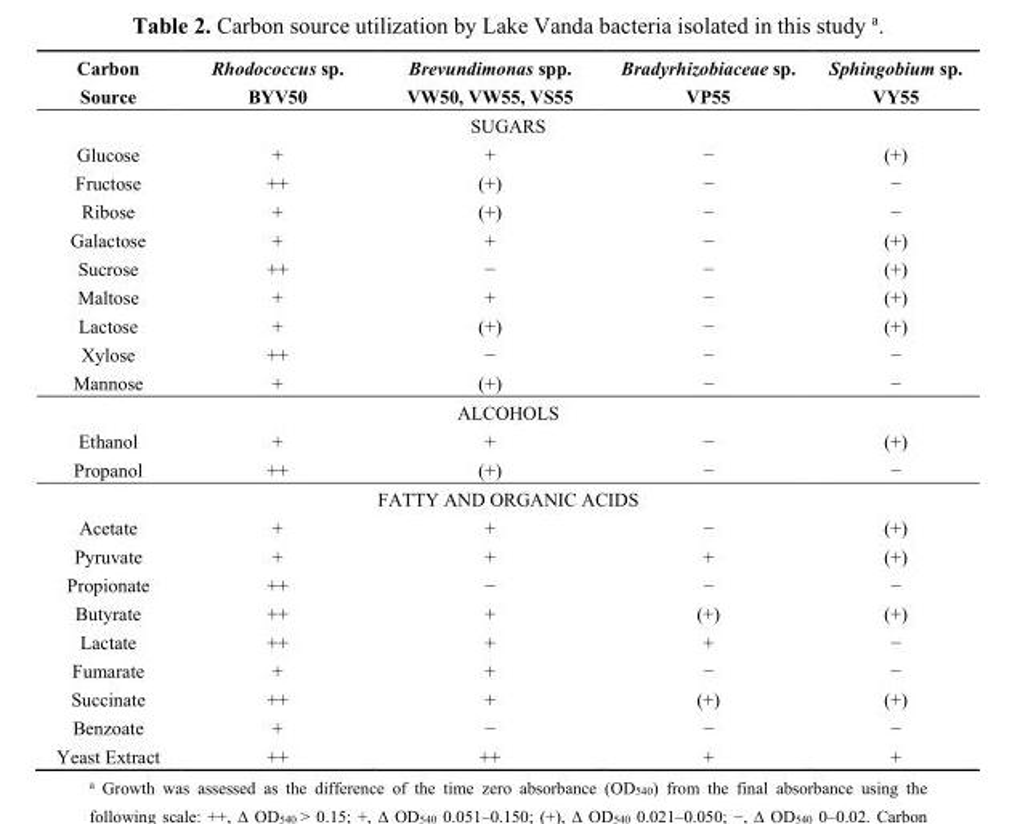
<table><thead><tr><td>Carbon Source</td><td>Rhodococcus sp. BYV50</td><td>Brevundimonas spp. VW50, VW55, VS55</td><td>Bradyrhizobiaceae sp. VP55</td><td>Sphingobium sp. VY55</td></tr></thead><tbody><tr><td colspan="5">SUGARS</td></tr><tr><td>Glucose</td><td>+</td><td>+</td><td>−</td><td>(+)</td></tr><tr><td>Fructose</td><td>++</td><td>(+)</td><td>−</td><td>−</td></tr><tr><td>Ribose</td><td>+</td><td>(+)</td><td>−</td><td>−</td></tr><tr><td>Galactose</td><td>+</td><td>+</td><td>−</td><td>(+)</td></tr><tr><td>Sucrose</td><td>++</td><td>−</td><td>−</td><td>(+)</td></tr><tr><td>Maltose</td><td>+</td><td>+</td><td>−</td><td>(+)</td></tr><tr><td>Lactose</td><td>+</td><td>(+)</td><td>−</td><td>(+)</td></tr><tr><td>Xylose</td><td>++</td><td>−</td><td>−</td><td>−</td></tr><tr><td>Mannose</td><td>+</td><td>(+)</td><td>−</td><td>−</td></tr><tr><td colspan="5">ALCOHOLS</td></tr><tr><td>Ethanol</td><td>+</td><td>+</td><td>−</td><td>(+)</td></tr><tr><td>Propanol</td><td>++</td><td>(+)</td><td>−</td><td>−</td></tr><tr><td colspan="5">FATTY AND ORGANIC ACIDS</td></tr><tr><td>Acetate</td><td>+</td><td>+</td><td>−</td><td>(+)</td></tr><tr><td>Pyruvate</td><td>+</td><td>+</td><td>+</td><td>(+)</td></tr><tr><td>Propionate</td><td>++</td><td>−</td><td>−</td><td>−</td></tr><tr><td>Butyrate</td><td>++</td><td>+</td><td>(+)</td><td>(+)</td></tr><tr><td>Lactate</td><td>++</td><td>+</td><td>+</td><td>−</td></tr><tr><td>Fumarate</td><td>+</td><td>+</td><td>−</td><td>−</td></tr><tr><td>Succinate</td><td>++</td><td>+</td><td>(+)</td><td>(+)</td></tr><tr><td>Benzoate</td><td>+</td><td>−</td><td>−</td><td>−</td></tr><tr><td>Yeast Extract</td><td>++</td><td>++</td><td>+</td><td>+</td></tr></tbody></table>